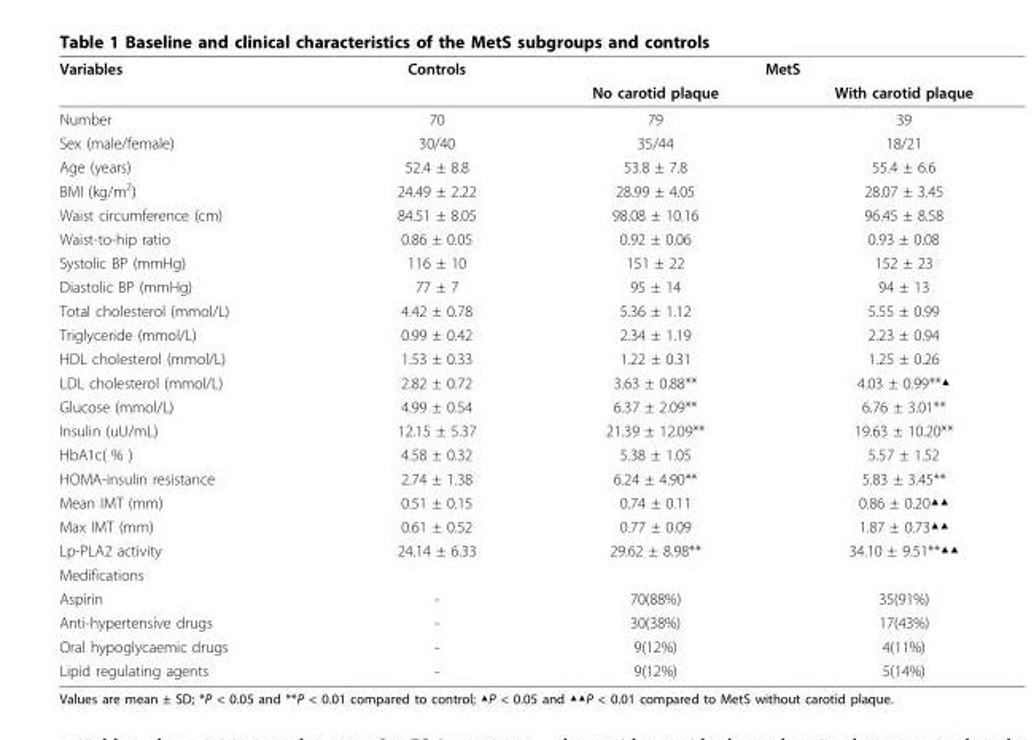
<table><thead><tr><td rowspan="2">Variables</td><td rowspan="2">Controls</td><td colspan="2">MetS</td></tr><tr><td>No carotid plaque</td><td>With carotid plaque</td></tr></thead><tbody><tr><td>Number</td><td>70</td><td>79</td><td>39</td></tr><tr><td>Sex (male/female)</td><td>30/40</td><td>35/44</td><td>18/21</td></tr><tr><td>Age (years)</td><td>52.4 ± 8.8</td><td>53.8 ± 7.8</td><td>55.4 ± 6.6</td></tr><tr><td>BMI (kg/m<sup>2</sup>)</td><td>24.49 ± 2.22</td><td>28.99 ± 4.05</td><td>28.07 ± 3.45</td></tr><tr><td>Waist circumference (cm)</td><td>84.51 ± 8.05</td><td>98.08 ± 10.16</td><td>96.45 ± 8.58</td></tr><tr><td>Waist-to-hip ratio</td><td>0.86 ± 0.05</td><td>0.92 ± 0.06</td><td>0.93 ± 0.08</td></tr><tr><td>Systolic BP (mmHg)</td><td>116 ± 10</td><td>151 ± 22</td><td>152 ± 23</td></tr><tr><td>Diastolic BP (mmHg)</td><td>77 ± 7</td><td>95 ± 14</td><td>94 ± 13</td></tr><tr><td>Total cholesterol (mmol/L)</td><td>4.42 ± 0.78</td><td>5.36 ± 1.12</td><td>5.55 ± 0.99</td></tr><tr><td>Triglyceride (mmol/L)</td><td>0.99 ± 0.42</td><td>2.34 ± 1.19</td><td>2.23 ± 0.94</td></tr><tr><td>HDL cholesterol (mmol/L)</td><td>1.53 ± 0.33</td><td>1.22 ± 0.31</td><td>1.25 ± 0.26</td></tr><tr><td>LDL cholesterol (mmol/L)</td><td>2.82 ± 0.72</td><td>3.63 ± 0.88**</td><td>4.03 ± 0.99**▲</td></tr><tr><td>Glucose (mmol/L)</td><td>4.99 ± 0.54</td><td>6.37 ± 2.09**</td><td>6.76 ± 3.01**</td></tr><tr><td>Insulin (uU/mL)</td><td>12.15 ± 5.37</td><td>21.39 ± 12.09**</td><td>19.63 ± 10.20**</td></tr><tr><td>HbA1c( % )</td><td>4.58 ± 0.32</td><td>5.38 ± 1.05</td><td>5.57 ± 1.52</td></tr><tr><td>HOMA-insulin resistance</td><td>2.74 ± 1.38</td><td>6.24 ± 4.90**</td><td>5.83 ± 3.45**</td></tr><tr><td>Mean IMT (mm)</td><td>0.51 ± 0.15</td><td>0.74 ± 0.11</td><td>0.86 ± 0.20▲▲</td></tr><tr><td>Max IMT (mm)</td><td>0.61 ± 0.52</td><td>0.77 ± 0.09</td><td>1.87 ± 0.73▲▲</td></tr><tr><td>Lp-PLA2 activity</td><td>24.14 ± 6.33</td><td>29.62 ± 8.98**</td><td>34.10 ± 9.51**▲▲</td></tr><tr><td colspan="4">Medifications</td></tr><tr><td>Aspirin</td><td>-</td><td>70(88%)</td><td>35(91%)</td></tr><tr><td>Anti-hypertensive drugs</td><td>-</td><td>30(38%)</td><td>17(43%)</td></tr><tr><td>Oral hypoglycaemic drugs</td><td>-</td><td>9(12%)</td><td>4(11%)</td></tr><tr><td>Lipid regulating agents</td><td>-</td><td>9(12%)</td><td>5(14%)</td></tr></tbody></table>